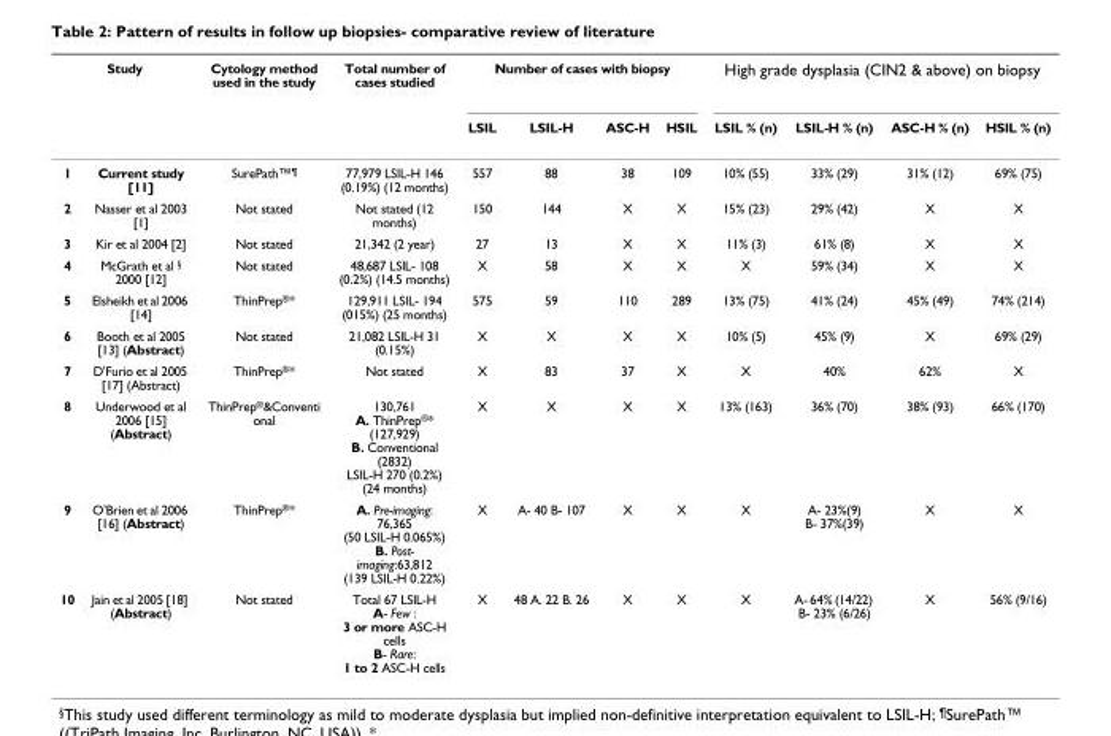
<table><thead><tr><td colspan="2">Study</td><td rowspan="2">Cytology method used in the study</td><td rowspan="2">Total number of cases studied</td><td colspan="4">Number of cases with biopsy</td><td colspan="4">High grade dysplasia (CIN2 &amp; above) on biopsy</td></tr><tr><td></td><td></td><td>LSIL</td><td>LSIL-H</td><td>ASC-H</td><td>HSIL</td><td>LSIL % (n)</td><td>LSIL-H % (n)</td><td>ASC-H % (n)</td><td>HSIL % (n)</td></tr></thead><tbody><tr><td>1</td><td>Current study [11]</td><td>SurePath™<sup>¶</sup></td><td>77,979 LSIL-H 146 (0.19%) (12 months)</td><td>557</td><td>88</td><td>38</td><td>109</td><td>10% (55)</td><td>33% (29)</td><td>31% (12)</td><td>69% (75)</td></tr><tr><td>2</td><td>Nasser et al 2003 [1]</td><td>Not stated</td><td>Not stated (12 months)</td><td>150</td><td>144</td><td>X</td><td>X</td><td>15% (23)</td><td>29% (42)</td><td>X</td><td>X</td></tr><tr><td>3</td><td>Kir et al 2004 [2]</td><td>Not stated</td><td>21,342 (2 year)</td><td>27</td><td>13</td><td>X</td><td>X</td><td>11% (3)</td><td>61% (8)</td><td>X</td><td>X</td></tr><tr><td>4</td><td>McGrath et al <sup>§</sup> 2000 [12]</td><td>Not stated</td><td>48,687 LSIL- 108 (0.2%) (14.5 months)</td><td>X</td><td>58</td><td>X</td><td>X</td><td>X</td><td>59% (34)</td><td>X</td><td>X</td></tr><tr><td>5</td><td>Elsheikh et al 2006 [14]</td><td>ThinPrep<sup>®</sup>*</td><td>129,911 LSIL- 194 (015%) (25 months)</td><td>575</td><td>59</td><td>110</td><td>289</td><td>13% (75)</td><td>41% (24)</td><td>45% (49)</td><td>74% (214)</td></tr><tr><td>6</td><td>Booth et al 2005 [13] (Abstract)</td><td>Not stated</td><td>21,082 LSIL-H 31 (0.15%)</td><td>X</td><td>X</td><td>X</td><td>X</td><td>10% (5)</td><td>45% (9)</td><td>X</td><td>69% (29)</td></tr><tr><td>7</td><td>D&#x27;Furio et al 2005 [17] (Abstract)</td><td>ThinPrep<sup>®</sup>*</td><td>Not stated</td><td>X</td><td>83</td><td>37</td><td>X</td><td>X</td><td>40%</td><td>62%</td><td>X</td></tr><tr><td>8</td><td>Underwood et al 2006 [15] (Abstract)</td><td>ThinPrep<sup>®</sup>&amp;Conventi onal</td><td>130,761 A. ThinPrep<sup>®</sup>* (127,929) B. Conventional (2832) LSIL-H 270 (0.2%) (24 months)</td><td>X</td><td>X</td><td>X</td><td>X</td><td>13% (163)</td><td>36% (70)</td><td>38% (93)</td><td>66% (170)</td></tr><tr><td>9</td><td>O&#x27;Brien et al 2006 [16] (Abstract)</td><td>ThinPrep<sup>®</sup>*</td><td>A. Pre-imaging: 76,365 (50 LSIL-H 0.065%) B. Post- imaging:63,812 (139 LSIL-H 0.22%)</td><td>X</td><td>A- 40 B- 107</td><td>X</td><td>X</td><td>X</td><td>A- 23%(9) B- 37%(39)</td><td>X</td><td>X</td></tr><tr><td>10</td><td>Jain et al 2005 [18] (Abstract)</td><td>Not stated</td><td>Total 67 LSIL-H A- Few : 3 or more ASC-H cells B- Rare: 1 to 2 ASC-H cells</td><td>X</td><td>48 A. 22 B. 26</td><td>X</td><td>X</td><td>X</td><td>A- 64% (14/22) B- 23% (6/26)</td><td>X</td><td>56% (9/16)</td></tr></tbody></table>